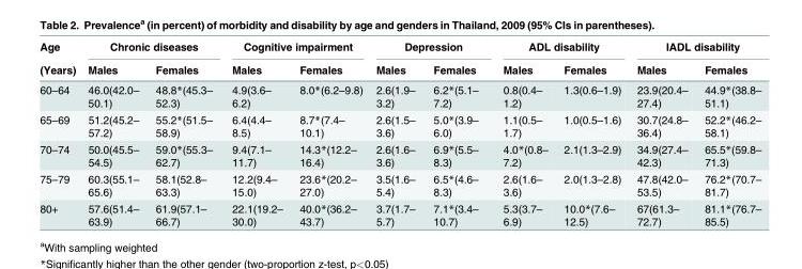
<table><thead><tr><td rowspan="2">Age (Years)</td><td colspan="2">Chronic diseases</td><td colspan="2">Cognitive impairment</td><td colspan="2">Depression</td><td colspan="2">ADL disability</td><td colspan="2">IADL disability</td></tr><tr><td>Males</td><td>Females</td><td>Males</td><td>Females</td><td>Males</td><td>Females</td><td>Males</td><td>Females</td><td>Males</td><td>Females</td></tr></thead><tbody><tr><td>60–64</td><td>46.0(42.0– 50.1)</td><td>48.8*(45.3– 52.3)</td><td>4.9(3.6– 6.2)</td><td>8.0*(6.2–9.8)</td><td>2.6(1.9– 3.2)</td><td>6.2*(5.1– 7.2)</td><td>0.8(0.4– 1.2)</td><td>1.3(0.6–1.9)</td><td>23.9(20.4– 27.4)</td><td>44.9*(38.8– 51.1)</td></tr><tr><td>65–69</td><td>51.2(45.2– 57.2)</td><td>55.2*(51.5– 58.9)</td><td>6.4(4.4– 8.5)</td><td>8.7*(7.4– 10.1)</td><td>2.6(1.5– 3.6)</td><td>5.0*(3.9– 6.0)</td><td>1.1(0.5– 1.7)</td><td>1.0(0.5–1.6)</td><td>30.7(24.8– 36.4)</td><td>52.2*(46.2– 58.1)</td></tr><tr><td>70–74</td><td>50.0(45.5– 54.5)</td><td>59.0*(55.3– 62.7)</td><td>9.4(7.1– 11.7)</td><td>14.3*(12.2– 16.4)</td><td>2.6(1.6– 3.6)</td><td>6.9*(5.5– 8.3)</td><td>4.0*(0.8– 7.2)</td><td>2.1(1.3–2.9)</td><td>34.9(27.4– 42.3)</td><td>65.5*(59.8– 71.3)</td></tr><tr><td>75–79</td><td>60.3(55.1– 65.6)</td><td>58.1(52.8– 63.3)</td><td>12.2(9.4– 15.0)</td><td>23.6*(20.2– 27.0)</td><td>3.5(1.6– 5.4)</td><td>6.5*(4.6– 8.3)</td><td>2.6(1.6– 3.6)</td><td>2.0(1.3–2.8)</td><td>47.8(42.0– 53.5)</td><td>76.2*(70.7– 81.7)</td></tr><tr><td>80+</td><td>57.6(51.4– 63.9)</td><td>61.9(57.1– 66.7)</td><td>22.1(19.2– 30.0)</td><td>40.0*(36.2– 43.7)</td><td>3.7(1.7– 5.7)</td><td>7.1*(3.4– 10.7)</td><td>5.3(3.7– 6.9)</td><td>10.0*(7.6– 12.5)</td><td>67(61.3– 72.7)</td><td>81.1*(76.7– 85.5)</td></tr></tbody></table>